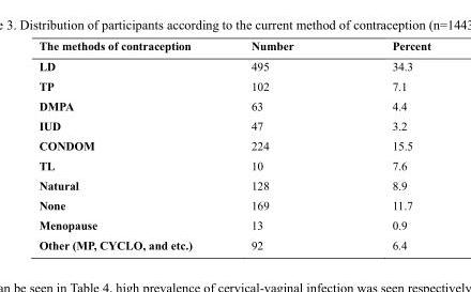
<table><thead><tr><td>The methods of contraception</td><td>Number</td><td>Percent</td></tr></thead><tbody><tr><td>LD</td><td>495</td><td>34.3</td></tr><tr><td>TP</td><td>102</td><td>7.1</td></tr><tr><td>DMPA</td><td>63</td><td>4.4</td></tr><tr><td>IUD</td><td>47</td><td>3.2</td></tr><tr><td>CONDOM</td><td>224</td><td>15.5</td></tr><tr><td>TL</td><td>10</td><td>7.6</td></tr><tr><td>Natural</td><td>128</td><td>8.9</td></tr><tr><td>None</td><td>169</td><td>11.7</td></tr><tr><td>Menopause</td><td>13</td><td>0.9</td></tr><tr><td>Other (MP, CYCLO, and etc.)</td><td>92</td><td>6.4</td></tr></tbody></table>